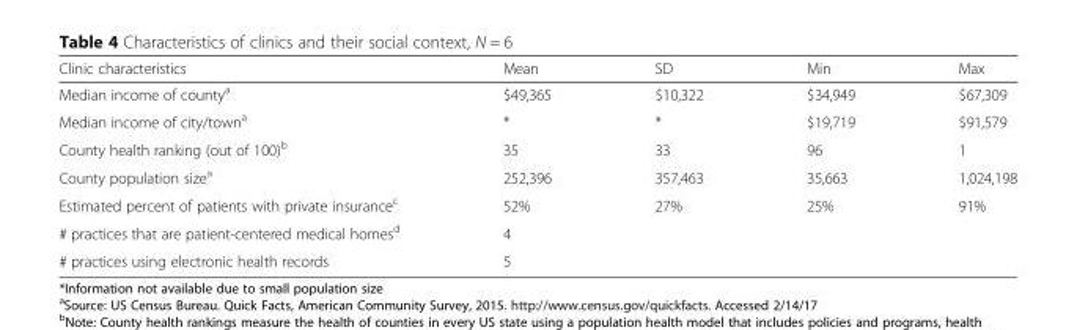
<table><thead><tr><td>Clinic characteristics</td><td>Mean</td><td>SD</td><td>Min</td><td>Max</td></tr></thead><tbody><tr><td>Median income of county<sup>a</sup></td><td>$49,365</td><td>$10,322</td><td>$34,949</td><td>$67,309</td></tr><tr><td>Median income of city/town<sup>a</sup></td><td>*</td><td>*</td><td>$19,719</td><td>$91,579</td></tr><tr><td>County health ranking (out of 100)<sup>b</sup></td><td>35</td><td>33</td><td>96</td><td>1</td></tr><tr><td>County population size<sup>a</sup></td><td>252,396</td><td>357,463</td><td>35,663</td><td>1,024,198</td></tr><tr><td>Estimated percent of patients with private insurance<sup>c</sup></td><td>52%</td><td>27%</td><td>25%</td><td>91%</td></tr><tr><td># practices that are patient-centered medical homes<sup>d</sup></td><td colspan="4">4</td></tr><tr><td># practices using electronic health records</td><td colspan="4">5</td></tr></tbody></table>